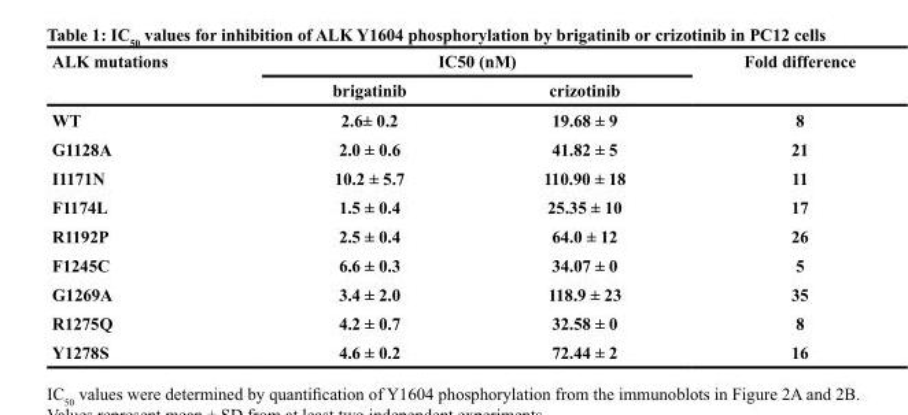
<table><thead><tr><td rowspan="2">ALK mutations</td><td colspan="2">IC50 (nM)</td><td rowspan="2">Fold difference</td></tr><tr><td>brigatinib</td><td>crizotinib</td></tr></thead><tbody><tr><td>WT</td><td>2.6± 0.2</td><td>19.68 ± 9</td><td>8</td></tr><tr><td>G1128A</td><td>2.0 ± 0.6</td><td>41.82 ± 5</td><td>21</td></tr><tr><td>I1171N</td><td>10.2 ± 5.7</td><td>110.90 ± 18</td><td>11</td></tr><tr><td>F1174L</td><td>1.5 ± 0.4</td><td>25.35 ± 10</td><td>17</td></tr><tr><td>R1192P</td><td>2.5 ± 0.4</td><td>64.0 ± 12</td><td>26</td></tr><tr><td>F1245C</td><td>6.6 ± 0.3</td><td>34.07 ± 0</td><td>5</td></tr><tr><td>G1269A</td><td>3.4 ± 2.0</td><td>118.9 ± 23</td><td>35</td></tr><tr><td>R1275Q</td><td>4.2 ± 0.7</td><td>32.58 ± 0</td><td>8</td></tr><tr><td>Y1278S</td><td>4.6 ± 0.2</td><td>72.44 ± 2</td><td>16</td></tr></tbody></table>